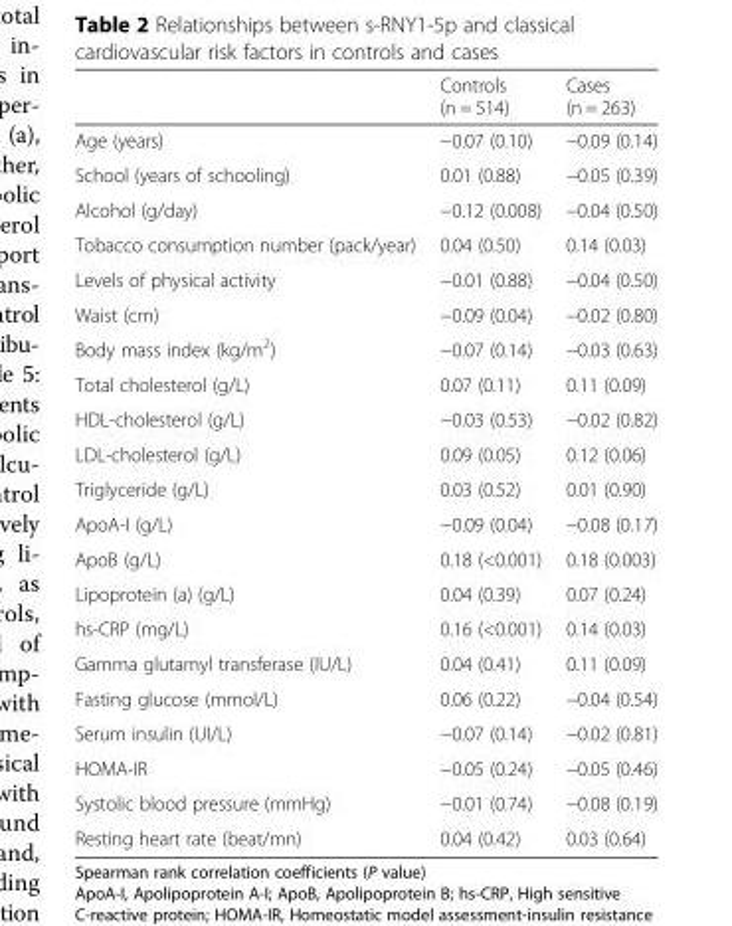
<table><thead><tr><td></td><td>Controls (n = 514)</td><td>Cases (n = 263)</td></tr></thead><tbody><tr><td>Age (years)</td><td>−0.07 (0.10)</td><td>−0.09 (0.14)</td></tr><tr><td>School (years of schooling)</td><td>0.01 (0.88)</td><td>−0.05 (0.39)</td></tr><tr><td>Alcohol (g/day)</td><td>−0.12 (0.008)</td><td>−0.04 (0.50)</td></tr><tr><td>Tobacco consumption number (pack/year)</td><td>0.04 (0.50)</td><td>0.14 (0.03)</td></tr><tr><td>Levels of physical activity</td><td>−0.01 (0.88)</td><td>−0.04 (0.50)</td></tr><tr><td>Waist (cm)</td><td>−0.09 (0.04)</td><td>−0.02 (0.80)</td></tr><tr><td>Body mass index (kg/m<sup>2</sup>)</td><td>−0.07 (0.14)</td><td>−0.03 (0.63)</td></tr><tr><td>Total cholesterol (g/L)</td><td>0.07 (0.11)</td><td>0.11 (0.09)</td></tr><tr><td>HDL-cholesterol (g/L)</td><td>−0.03 (0.53)</td><td>−0.02 (0.82)</td></tr><tr><td>LDL-cholesterol (g/L)</td><td>0.09 (0.05)</td><td>0.12 (0.06)</td></tr><tr><td>Triglyceride (g/L)</td><td>0.03 (0.52)</td><td>0.01 (0.90)</td></tr><tr><td>ApoA-I (g/L)</td><td>−0.09 (0.04)</td><td>−0.08 (0.17)</td></tr><tr><td>ApoB (g/L)</td><td>0.18 (&lt;0.001)</td><td>0.18 (0.003)</td></tr><tr><td>Lipoprotein (a) (g/L)</td><td>0.04 (0.39)</td><td>0.07 (0.24)</td></tr><tr><td>hs-CRP (mg/L)</td><td>0.16 (&lt;0.001)</td><td>0.14 (0.03)</td></tr><tr><td>Gamma glutamyl transferase (IU/L)</td><td>0.04 (0.41)</td><td>0.11 (0.09)</td></tr><tr><td>Fasting glucose (mmol/L)</td><td>0.06 (0.22)</td><td>−0.04 (0.54)</td></tr><tr><td>Serum insulin (UI/L)</td><td>−0.07 (0.14)</td><td>−0.02 (0.81)</td></tr><tr><td>HOMA-IR</td><td>−0.05 (0.24)</td><td>−0.05 (0.46)</td></tr><tr><td>Systolic blood pressure (mmHg)</td><td>−0.01 (0.74)</td><td>−0.08 (0.19)</td></tr><tr><td>Resting heart rate (beat/mn)</td><td>0.04 (0.42)</td><td>0.03 (0.64)</td></tr></tbody></table>